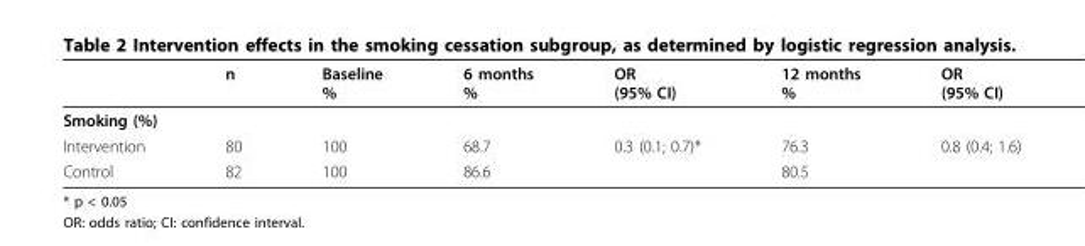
<table><thead><tr><td></td><td>n</td><td>Baseline %</td><td>6 months %</td><td>OR (95% CI)</td><td>12 months %</td><td>OR (95% CI)</td></tr></thead><tbody><tr><td colspan="7">Smoking (%)</td></tr><tr><td>Intervention</td><td>80</td><td>100</td><td>68.7</td><td>0.3 (0.1; 0.7)*</td><td>76.3</td><td>0.8 (0.4; 1.6)</td></tr><tr><td>Control</td><td>82</td><td>100</td><td>86.6</td><td></td><td>80.5</td><td></td></tr></tbody></table>